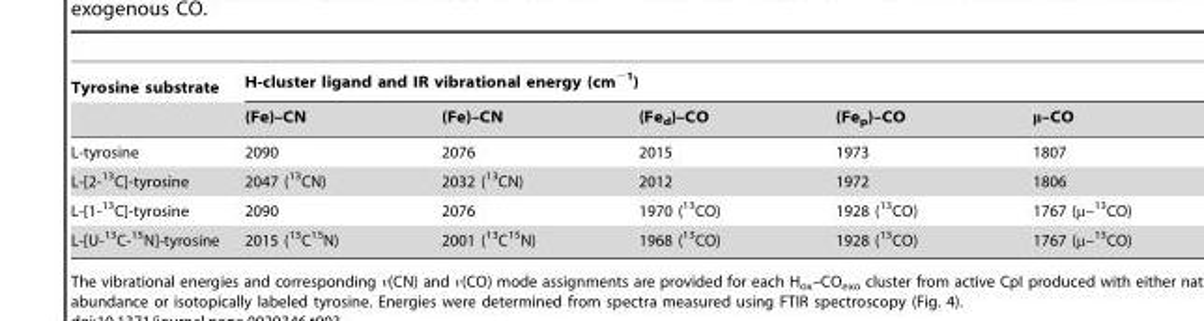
<table><thead><tr><td rowspan="2">Tyrosine substrate</td><td colspan="5">H-cluster ligand and IR vibrational energy (cm<sup>−1</sup>)</td></tr><tr><td>(Fe)–CN</td><td>(Fe)–CN</td><td>(Fe<sub>d</sub>)–CO</td><td>(Fe<sub>p</sub>)–CO</td><td>μ–CO</td></tr></thead><tbody><tr><td>L-tyrosine</td><td>2090</td><td>2076</td><td>2015</td><td>1973</td><td>1807</td></tr><tr><td>L-[2-<sup>13</sup>C]-tyrosine</td><td>2047 (<sup>13</sup>CN)</td><td>2032 (<sup>13</sup>CN)</td><td>2012</td><td>1972</td><td>1806</td></tr><tr><td>L-[1-<sup>13</sup>C]-tyrosine</td><td>2090</td><td>2076</td><td>1970 (<sup>13</sup>CO)</td><td>1928 (<sup>13</sup>CO)</td><td>1767 (μ–<sup>13</sup>CO)</td></tr><tr><td>L-[U-<sup>13</sup>C-<sup>15</sup>N]-tyrosine</td><td>2015 (<sup>13</sup>C<sup>15</sup>N)</td><td>2001 (<sup>13</sup>C<sup>15</sup>N)</td><td>1968 (<sup>13</sup>CO)</td><td>1928 (<sup>13</sup>CO)</td><td>1767 (μ–<sup>13</sup>CO)</td></tr></tbody></table>